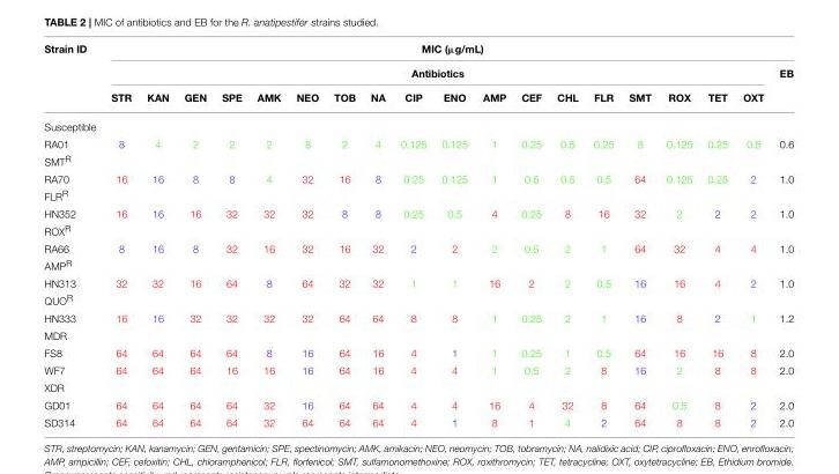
<table><thead><tr><td rowspan="3">Strain ID</td><td colspan="19">MIC (µg/mL)</td></tr><tr><td colspan="18">Antibiotics</td><td rowspan="2">EB</td></tr><tr><td>STR</td><td>KAN</td><td>GEN</td><td>SPE</td><td>AMK</td><td>NEO</td><td>TOB</td><td>NA</td><td>CIP</td><td>ENO</td><td>AMP</td><td>CEF</td><td>CHL</td><td>FLR</td><td>SMT</td><td>ROX</td><td>TET</td><td>OXT</td></tr></thead><tbody><tr><td colspan="20">Susceptible</td></tr><tr><td>RA01</td><td>8</td><td>4</td><td>2</td><td>2</td><td>2</td><td>8</td><td>2</td><td>4</td><td>0.125</td><td>0.125</td><td>1</td><td>0.25</td><td>0.5</td><td>0.25</td><td>8</td><td>0.125</td><td>0.25</td><td>0.5</td><td>0.6</td></tr><tr><td colspan="20">SMT<sup>R</sup></td></tr><tr><td>RA70</td><td>16</td><td>16</td><td>8</td><td>8</td><td>4</td><td>32</td><td>16</td><td>8</td><td>0.25</td><td>0.125</td><td>1</td><td>0.5</td><td>0.5</td><td>0.5</td><td>64</td><td>0.125</td><td>0.25</td><td>2</td><td>1.0</td></tr><tr><td colspan="20">FLR<sup>R</sup></td></tr><tr><td>HN352</td><td>16</td><td>16</td><td>16</td><td>32</td><td>32</td><td>32</td><td>8</td><td>8</td><td>0.25</td><td>0.5</td><td>4</td><td>0.25</td><td>8</td><td>16</td><td>32</td><td>2</td><td>2</td><td>2</td><td>1.0</td></tr><tr><td colspan="20">ROX<sup>R</sup></td></tr><tr><td>RA66</td><td>8</td><td>16</td><td>8</td><td>32</td><td>16</td><td>32</td><td>16</td><td>32</td><td>2</td><td>2</td><td>2</td><td>0.5</td><td>2</td><td>1</td><td>64</td><td>32</td><td>4</td><td>4</td><td>1.0</td></tr><tr><td colspan="20">AMP<sup>R</sup></td></tr><tr><td>HN313</td><td>32</td><td>32</td><td>16</td><td>64</td><td>8</td><td>64</td><td>32</td><td>32</td><td>1</td><td>1</td><td>16</td><td>2</td><td>2</td><td>0.5</td><td>16</td><td>16</td><td>4</td><td>2</td><td>1.0</td></tr><tr><td colspan="20">QUO<sup>R</sup></td></tr><tr><td>HN333</td><td>16</td><td>16</td><td>32</td><td>32</td><td>32</td><td>32</td><td>64</td><td>64</td><td>8</td><td>8</td><td>1</td><td>0.25</td><td>2</td><td>1</td><td>16</td><td>8</td><td>2</td><td>1</td><td>1.2</td></tr><tr><td colspan="20">MDR</td></tr><tr><td>FS8</td><td>64</td><td>64</td><td>64</td><td>64</td><td>8</td><td>16</td><td>64</td><td>16</td><td>4</td><td>1</td><td>1</td><td>0.25</td><td>1</td><td>0.5</td><td>64</td><td>16</td><td>16</td><td>8</td><td>2.0</td></tr><tr><td>WF7</td><td>64</td><td>64</td><td>64</td><td>16</td><td>16</td><td>16</td><td>64</td><td>16</td><td>4</td><td>4</td><td>1</td><td>0.5</td><td>2</td><td>8</td><td>16</td><td>2</td><td>8</td><td>8</td><td>2.0</td></tr><tr><td colspan="20">XDR</td></tr><tr><td>GD01</td><td>64</td><td>64</td><td>64</td><td>64</td><td>32</td><td>16</td><td>64</td><td>64</td><td>4</td><td>4</td><td>16</td><td>4</td><td>32</td><td>8</td><td>64</td><td>0.5</td><td>8</td><td>2</td><td>2.0</td></tr><tr><td>SD314</td><td>64</td><td>64</td><td>64</td><td>64</td><td>32</td><td>64</td><td>64</td><td>64</td><td>4</td><td>1</td><td>8</td><td>1</td><td>4</td><td>2</td><td>64</td><td>8</td><td>8</td><td>2</td><td>2.0</td></tr></tbody></table>